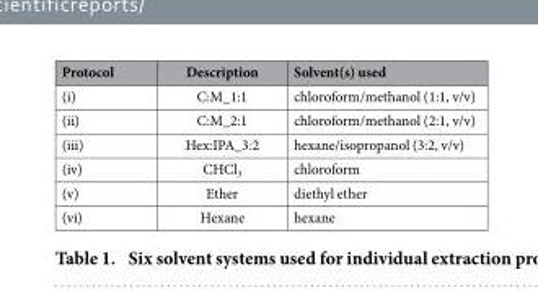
<table><thead><tr><td>Protocol</td><td>Description</td><td>Solvent(s) used</td></tr></thead><tbody><tr><td>(i)</td><td>C:M_1:1</td><td>chloroform/methanol (1:1, v/v)</td></tr><tr><td>(ii)</td><td>C:M_2:1</td><td>chloroform/methanol (2:1, v/v)</td></tr><tr><td>(iii)</td><td>Hex:IPA_3:2</td><td>hexane/isopropanol (3:2, v/v)</td></tr><tr><td>(iv)</td><td>CHCl<sub>3</sub></td><td>chloroform</td></tr><tr><td>(v)</td><td>Ether</td><td>diethyl ether</td></tr><tr><td>(vi)</td><td>Hexane</td><td>hexane</td></tr></tbody></table>